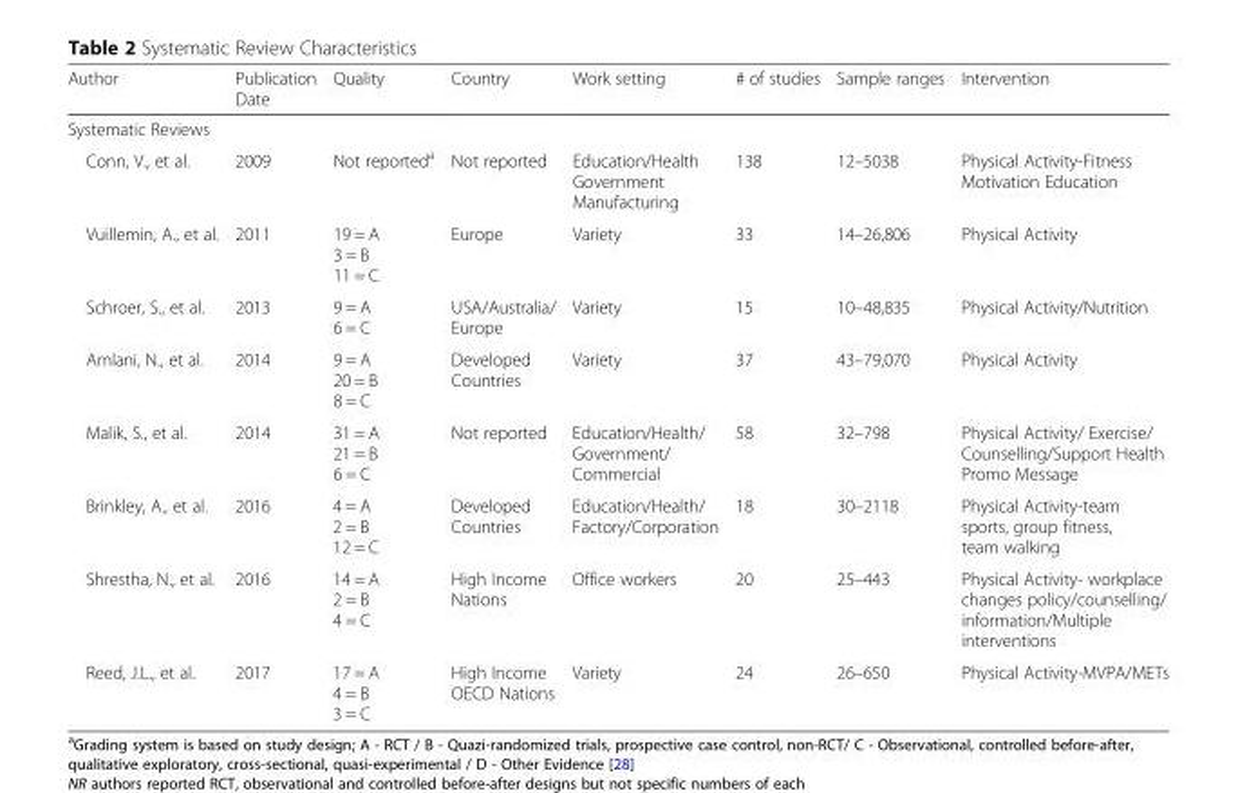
<table><thead><tr><td>Author</td><td>Publication Date</td><td>Quality</td><td>Country</td><td>Work setting</td><td># of studies</td><td>Sample ranges</td><td>Intervention</td></tr></thead><tbody><tr><td colspan="8">Systematic Reviews</td></tr><tr><td>Conn, V., et al.</td><td>2009</td><td>Not reported<sup>a</sup></td><td>Not reported</td><td>Education/Health Government Manufacturing</td><td>138</td><td>12–5038</td><td>Physical Activity-Fitness Motivation Education</td></tr><tr><td>Vuillemin, A., et al.</td><td>2011</td><td>19 = A 3 = B 11 = C</td><td>Europe</td><td>Variety</td><td>33</td><td>14–26,806</td><td>Physical Activity</td></tr><tr><td>Schroer, S., et al.</td><td>2013</td><td>9 = A 6 = C</td><td>USA/Australia/ Europe</td><td>Variety</td><td>15</td><td>10–48,835</td><td>Physical Activity/Nutrition</td></tr><tr><td>Amlani, N., et al.</td><td>2014</td><td>9 = A 20 = B 8 = C</td><td>Developed Countries</td><td>Variety</td><td>37</td><td>43–79,070</td><td>Physical Activity</td></tr><tr><td>Malik, S., et al.</td><td>2014</td><td>31 = A 21 = B 6 = C</td><td>Not reported</td><td>Education/Health/ Government/ Commercial</td><td>58</td><td>32–798</td><td>Physical Activity/ Exercise/ Counselling/Support Health Promo Message</td></tr><tr><td>Brinkley, A., et al.</td><td>2016</td><td>4 = A 2 = B 12 = C</td><td>Developed Countries</td><td>Education/Health/ Factory/Corporation</td><td>18</td><td>30–2118</td><td>Physical Activity-team sports, group fitness, team walking</td></tr><tr><td>Shrestha, N., et al.</td><td>2016</td><td>14 = A 2 = B 4 = C</td><td>High Income Nations</td><td>Office workers</td><td>20</td><td>25–443</td><td>Physical Activity- workplace changes policy/counselling/ information/Multiple interventions</td></tr><tr><td>Reed, J.L., et al.</td><td>2017</td><td>17 = A 4 = B 3 = C</td><td>High Income OECD Nations</td><td>Variety</td><td>24</td><td>26–650</td><td>Physical Activity-MVPA/METs</td></tr></tbody></table>